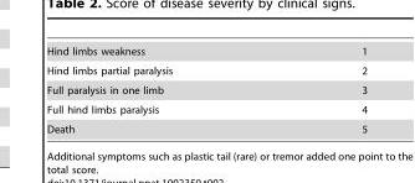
<table><tbody><tr><td>Hind limbs weakness</td><td>1</td></tr><tr><td>Hind limbs partial paralysis</td><td>2</td></tr><tr><td>Full paralysis in one limb</td><td>3</td></tr><tr><td>Full hind limbs paralysis</td><td>4</td></tr><tr><td>Death</td><td>5</td></tr></tbody></table>